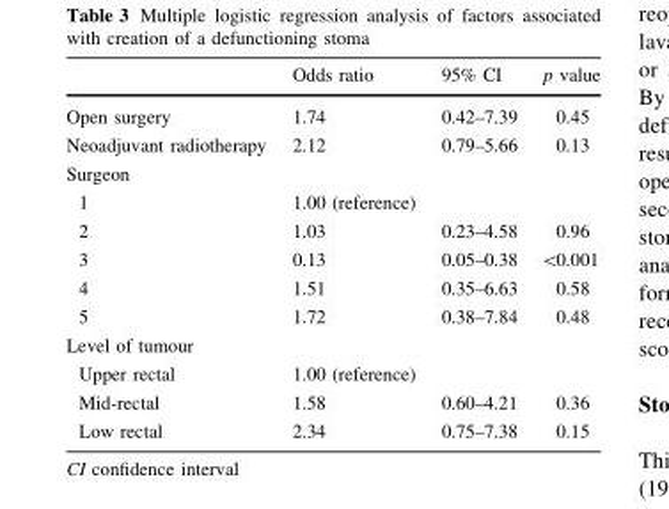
<table><thead><tr><td></td><td>Odds ratio</td><td>95% CI</td><td>p value</td></tr></thead><tbody><tr><td>Open surgery</td><td>1.74</td><td>0.42–7.39</td><td>0.45</td></tr><tr><td>Neoadjuvant radiotherapy</td><td>2.12</td><td>0.79–5.66</td><td>0.13</td></tr><tr><td colspan="4">Surgeon</td></tr><tr><td>1</td><td>1.00 (reference)</td><td></td><td></td></tr><tr><td>2</td><td>1.03</td><td>0.23–4.58</td><td>0.96</td></tr><tr><td>3</td><td>0.13</td><td>0.05–0.38</td><td>&lt;0.001</td></tr><tr><td>4</td><td>1.51</td><td>0.35–6.63</td><td>0.58</td></tr><tr><td>5</td><td>1.72</td><td>0.38–7.84</td><td>0.48</td></tr><tr><td colspan="4">Level of tumour</td></tr><tr><td>Upper rectal</td><td>1.00 (reference)</td><td></td><td></td></tr><tr><td>Mid-rectal</td><td>1.58</td><td>0.60–4.21</td><td>0.36</td></tr><tr><td>Low rectal</td><td>2.34</td><td>0.75–7.38</td><td>0.15</td></tr></tbody></table>